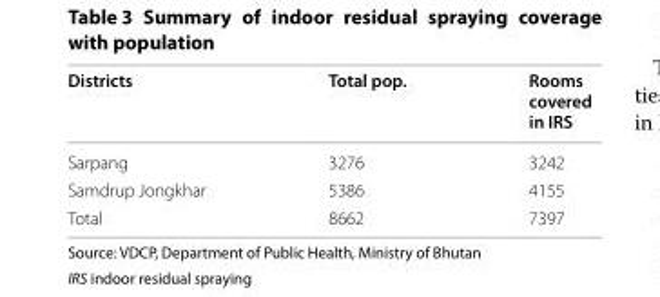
<table><thead><tr><td>Districts</td><td>Total pop.</td><td>Rooms covered in IRS</td></tr></thead><tbody><tr><td>Sarpang</td><td>3276</td><td>3242</td></tr><tr><td>Samdrup Jongkhar</td><td>5386</td><td>4155</td></tr><tr><td>Total</td><td>8662</td><td>7397</td></tr></tbody></table>